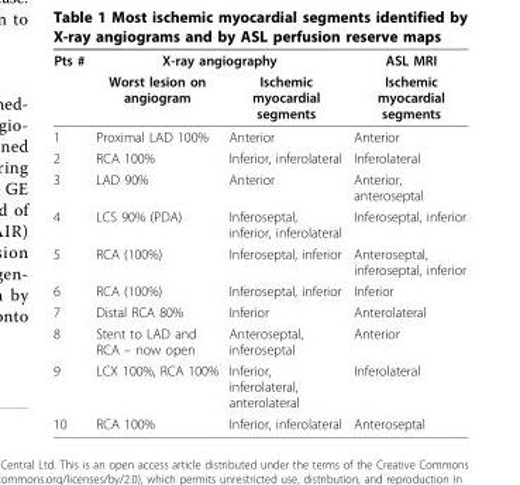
<table><thead><tr><td rowspan="2">Pts #</td><td colspan="2">X-ray angiography</td><td rowspan="2">ASL MRI Ischemic myocardial segments</td></tr><tr><td>Worst lesion on angiogram</td><td>Ischemic myocardial segments</td></tr></thead><tbody><tr><td>1</td><td>Proximal LAD 100%</td><td>Anterior</td><td>Anterior</td></tr><tr><td>2</td><td>RCA 100%</td><td>Inferior, inferolateral</td><td>Inferolateral</td></tr><tr><td>3</td><td>LAD 90%</td><td>Anterior</td><td>Anterior, anteroseptal</td></tr><tr><td>4</td><td>LCS 90% (PDA)</td><td>Inferoseptal, inferior, inferolateral</td><td>Inferoseptal, inferior</td></tr><tr><td>5</td><td>RCA (100%)</td><td>Inferoseptal, inferior</td><td>Anteroseptal, inferoseptal, inferior</td></tr><tr><td>6</td><td>RCA (100%)</td><td>Inferoseptal, inferior</td><td>Inferior</td></tr><tr><td>7</td><td>Distal RCA 80%</td><td>Inferior</td><td>Anterolateral</td></tr><tr><td>8</td><td>Stent to LAD and RCA – now open</td><td>Anteroseptal, inferoseptal</td><td>Anterior</td></tr><tr><td>9</td><td>LCX 100%, RCA 100%</td><td>Inferior, inferolateral, anterolateral</td><td>Inferolateral</td></tr><tr><td>10</td><td>RCA 100%</td><td>Inferior, inferolateral</td><td>Anteroseptal</td></tr></tbody></table>